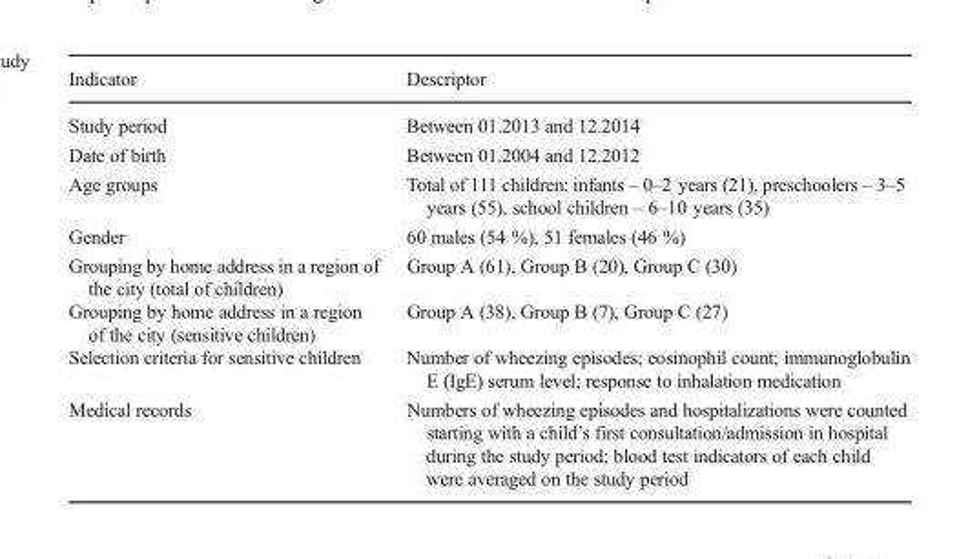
<table><thead><tr><td>Indicator</td><td>Descriptor</td></tr></thead><tbody><tr><td>Study period</td><td>Between 01.2013 and 12.2014</td></tr><tr><td>Date of birth</td><td>Between 01.2004 and 12.2012</td></tr><tr><td>Age groups</td><td>Total of 111 children: infants – 0–2 years (21), preschoolers – 3–5 years (55), school children – 6–10 years (35)</td></tr><tr><td>Gender</td><td>60 males (54 %), 51 females (46 %)</td></tr><tr><td>Grouping by home address in a region of the city (total of children)</td><td>Group A (61), Group B (20), Group C (30)</td></tr><tr><td>Grouping by home address in a region of the city (sensitive children)</td><td>Group A (38), Group B (7), Group C (27)</td></tr><tr><td>Selection criteria for sensitive children</td><td>Number of wheezing episodes; eosinophil count; immunoglobulin E (IgE) serum level; response to inhalation medication</td></tr><tr><td>Medical records</td><td>Numbers of wheezing episodes and hospitalizations were counted starting with a child’s first consultation/admission in hospital during the study period; blood test indicators of each child were averaged on the study period</td></tr></tbody></table>